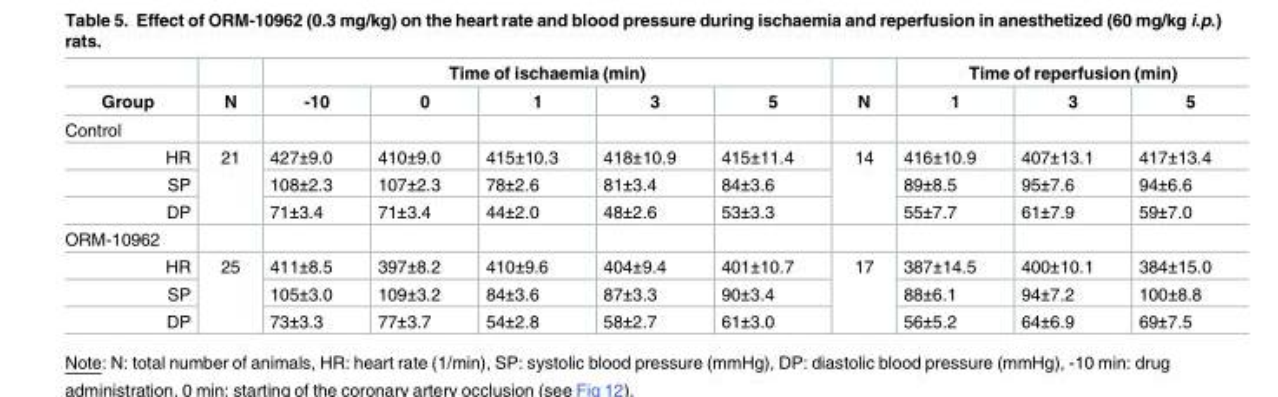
<table><thead><tr><td rowspan="2">Group</td><td rowspan="2">N</td><td colspan="5">Time of ischaemia (min)</td><td rowspan="2">N</td><td colspan="3">Time of reperfusion (min)</td></tr><tr><td>-10</td><td>0</td><td>1</td><td>3</td><td>5</td><td>1</td><td>3</td><td>5</td></tr></thead><tbody><tr><td colspan="11">Control</td></tr><tr><td>HR</td><td rowspan="3">21</td><td>427±9.0</td><td>410±9.0</td><td>415±10.3</td><td>418±10.9</td><td>415±11.4</td><td rowspan="3">14</td><td>416±10.9</td><td>407±13.1</td><td>417±13.4</td></tr><tr><td>SP</td><td>108±2.3</td><td>107±2.3</td><td>78±2.6</td><td>81±3.4</td><td>84±3.6</td><td>89±8.5</td><td>95±7.6</td><td>94±6.6</td></tr><tr><td>DP</td><td>71±3.4</td><td>71±3.4</td><td>44±2.0</td><td>48±2.6</td><td>53±3.3</td><td>55±7.7</td><td>61±7.9</td><td>59±7.0</td></tr><tr><td colspan="11">ORM-10962</td></tr><tr><td>HR</td><td rowspan="3">25</td><td>411±8.5</td><td>397±8.2</td><td>410±9.6</td><td>404±9.4</td><td>401±10.7</td><td rowspan="3">17</td><td>387±14.5</td><td>400±10.1</td><td>384±15.0</td></tr><tr><td>SP</td><td>105±3.0</td><td>109±3.2</td><td>84±3.6</td><td>87±3.3</td><td>90±3.4</td><td>88±6.1</td><td>94±7.2</td><td>100±8.8</td></tr><tr><td>DP</td><td>73±3.3</td><td>77±3.7</td><td>54±2.8</td><td>58±2.7</td><td>61±3.0</td><td>56±5.2</td><td>64±6.9</td><td>69±7.5</td></tr></tbody></table>